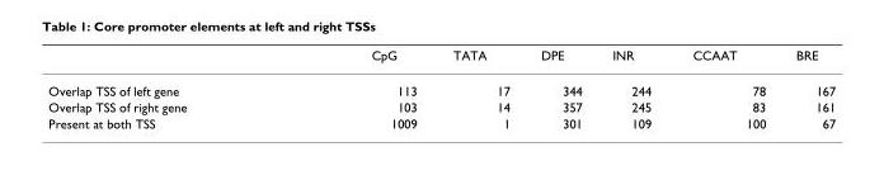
<table><thead><tr><td></td><td>CpG</td><td>TATA</td><td>DPE</td><td>INR</td><td>CCAAT</td><td>BRE</td></tr></thead><tbody><tr><td>Overlap TSS of left gene</td><td>113</td><td>17</td><td>344</td><td>244</td><td>78</td><td>167</td></tr><tr><td>Overlap TSS of right gene</td><td>103</td><td>14</td><td>357</td><td>245</td><td>83</td><td>161</td></tr><tr><td>Present at both TSS</td><td>1009</td><td>1</td><td>301</td><td>109</td><td>100</td><td>67</td></tr></tbody></table>